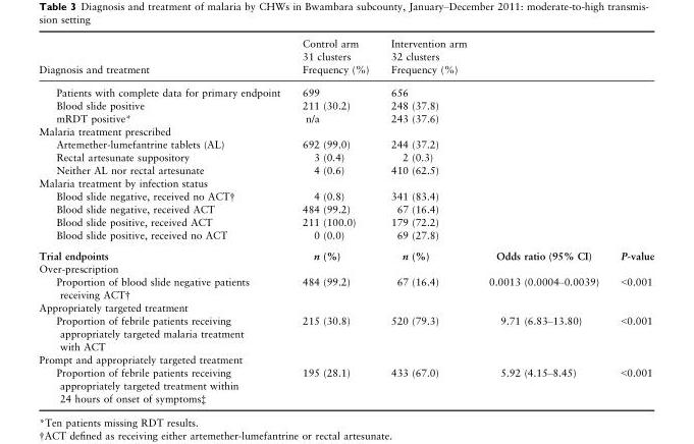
<table><thead><tr><td rowspan="2">Diagnosis and treatment</td><td rowspan="2">Control arm 31 clusters Frequency (%)</td><td rowspan="2">Intervention arm 32 clusters Frequency (%)</td><td rowspan="2"></td><td rowspan="2"></td></tr><tr></tr></thead><tbody><tr><td>Patients with complete data for primary endpoint</td><td>699</td><td>656</td><td></td><td></td></tr><tr><td>Blood slide positive</td><td>211 (30.2)</td><td>248 (37.8)</td><td></td><td></td></tr><tr><td>mRDT positive*</td><td>n/a</td><td>243 (37.6)</td><td></td><td></td></tr><tr><td colspan="5">Malaria treatment prescribed</td></tr><tr><td>Artemether-lumefantrine tablets (AL)</td><td>692 (99.0)</td><td>244 (37.2)</td><td></td><td></td></tr><tr><td>Rectal artesunate suppository</td><td>3 (0.4)</td><td>2 (0.3)</td><td></td><td></td></tr><tr><td>Neither AL nor rectal artesunate</td><td>4 (0.6)</td><td>410 (62.5)</td><td></td><td></td></tr><tr><td colspan="5">Malaria treatment by infection status</td></tr><tr><td>Blood slide negative, received no ACT†</td><td>4 (0.8)</td><td>341 (83.4)</td><td></td><td></td></tr><tr><td>Blood slide negative, received ACT</td><td>484 (99.2)</td><td>67 (16.4)</td><td></td><td></td></tr><tr><td>Blood slide positive, received ACT</td><td>211 (100.0)</td><td>179 (72.2)</td><td></td><td></td></tr><tr><td>Blood slide positive, received no ACT</td><td>0 (0.0)</td><td>69 (27.8)</td><td></td><td></td></tr><tr><td>Trial endpoints</td><td>n (%)</td><td>n (%)</td><td>Odds ratio (95% CI)</td><td>P-value</td></tr><tr><td colspan="5">Over-prescription</td></tr><tr><td>Proportion of blood slide negative patients receiving ACT†</td><td>484 (99.2)</td><td>67 (16.4)</td><td>0.0013 (0.0004–0.0039)</td><td>&lt;0.001</td></tr><tr><td colspan="5">Appropriately targeted treatment</td></tr><tr><td>Proportion of febrile patients receiving appropriately targeted malaria treatment with ACT</td><td>215 (30.8)</td><td>520 (79.3)</td><td>9.71 (6.83–13.80)</td><td>&lt;0.001</td></tr><tr><td colspan="5">Prompt and appropriately targeted treatment</td></tr><tr><td>Proportion of febrile patients receiving appropriately targeted treatment within 24 hours of onset of symptoms‡</td><td>195 (28.1)</td><td>433 (67.0)</td><td>5.92 (4.15–8.45)</td><td>&lt;0.001</td></tr></tbody></table>